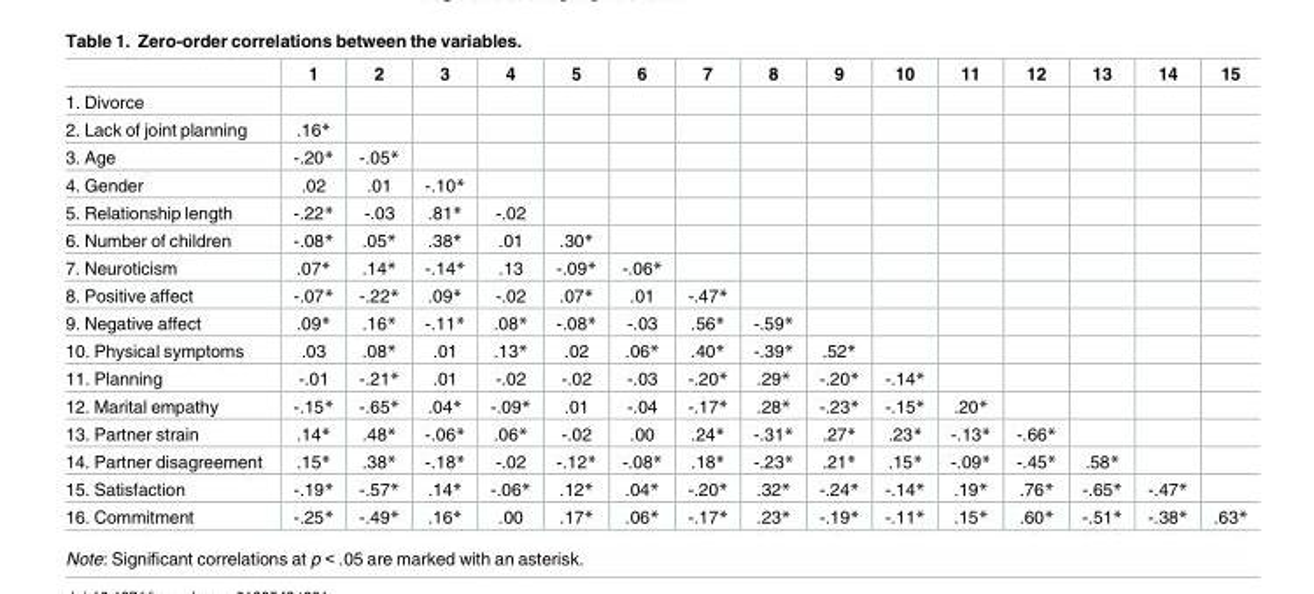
<table><thead><tr><td></td><td>1</td><td>2</td><td>3</td><td>4</td><td>5</td><td>6</td><td>7</td><td>8</td><td>9</td><td>10</td><td>11</td><td>12</td><td>13</td><td>14</td><td>15</td></tr></thead><tbody><tr><td colspan="16">1. Divorce</td></tr><tr><td>2. Lack of joint planning</td><td>.16*</td><td></td><td></td><td></td><td></td><td></td><td></td><td></td><td></td><td></td><td></td><td></td><td></td><td></td><td></td></tr><tr><td>3. Age</td><td>-.20*</td><td>-.05*</td><td></td><td></td><td></td><td></td><td></td><td></td><td></td><td></td><td></td><td></td><td></td><td></td><td></td></tr><tr><td>4. Gender</td><td>.02</td><td>.01</td><td>-.10*</td><td></td><td></td><td></td><td></td><td></td><td></td><td></td><td></td><td></td><td></td><td></td><td></td></tr><tr><td>5. Relationship length</td><td>-.22*</td><td>-.03</td><td>.81*</td><td>-.02</td><td></td><td></td><td></td><td></td><td></td><td></td><td></td><td></td><td></td><td></td><td></td></tr><tr><td>6. Number of children</td><td>-.08*</td><td>.05*</td><td>.38*</td><td>.01</td><td>.30*</td><td></td><td></td><td></td><td></td><td></td><td></td><td></td><td></td><td></td><td></td></tr><tr><td>7. Neuroticism</td><td>.07*</td><td>.14*</td><td>-.14*</td><td>.13</td><td>-.09*</td><td>-.06*</td><td></td><td></td><td></td><td></td><td></td><td></td><td></td><td></td><td></td></tr><tr><td>8. Positive affect</td><td>-.07*</td><td>-.22*</td><td>.09*</td><td>-.02</td><td>.07*</td><td>.01</td><td>-.47*</td><td></td><td></td><td></td><td></td><td></td><td></td><td></td><td></td></tr><tr><td>9. Negative affect</td><td>.09*</td><td>.16*</td><td>-.11*</td><td>.08*</td><td>-.08*</td><td>-.03</td><td>.56*</td><td>-.59*</td><td></td><td></td><td></td><td></td><td></td><td></td><td></td></tr><tr><td>10. Physical symptoms</td><td>.03</td><td>.08*</td><td>.01</td><td>.13*</td><td>.02</td><td>.06*</td><td>.40*</td><td>-.39*</td><td>.52*</td><td></td><td></td><td></td><td></td><td></td><td></td></tr><tr><td>11. Planning</td><td>-.01</td><td>-.21*</td><td>.01</td><td>-.02</td><td>-.02</td><td>-.03</td><td>-.20*</td><td>.29*</td><td>-.20*</td><td>-.14*</td><td></td><td></td><td></td><td></td><td></td></tr><tr><td>12. Marital empathy</td><td>-.15*</td><td>-.65*</td><td>.04*</td><td>-.09*</td><td>.01</td><td>-.04</td><td>-.17*</td><td>.28*</td><td>-.23*</td><td>-.15*</td><td>.20*</td><td></td><td></td><td></td><td></td></tr><tr><td>13. Partner strain</td><td>.14*</td><td>.48*</td><td>-.06*</td><td>.06*</td><td>-.02</td><td>.00</td><td>.24*</td><td>-.31*</td><td>.27*</td><td>.23*</td><td>-.13*</td><td>-.66*</td><td></td><td></td><td></td></tr><tr><td>14. Partner disagreement</td><td>.15*</td><td>.38*</td><td>-.18*</td><td>-.02</td><td>-.12*</td><td>-.08*</td><td>.18*</td><td>-.23*</td><td>.21*</td><td>.15*</td><td>-.09*</td><td>-.45*</td><td>.58*</td><td></td><td></td></tr><tr><td>15. Satisfaction</td><td>-.19*</td><td>-.57*</td><td>.14*</td><td>-.06*</td><td>.12*</td><td>.04*</td><td>-.20*</td><td>.32*</td><td>-.24*</td><td>-.14*</td><td>.19*</td><td>.76*</td><td>-.65*</td><td>-.47*</td><td></td></tr><tr><td>16. Commitment</td><td>-.25*</td><td>-.49*</td><td>.16*</td><td>.00</td><td>.17*</td><td>.06*</td><td>-.17*</td><td>.23*</td><td>-.19*</td><td>-.11*</td><td>.15*</td><td>.60*</td><td>-.51*</td><td>-.38*</td><td>.63*</td></tr></tbody></table>